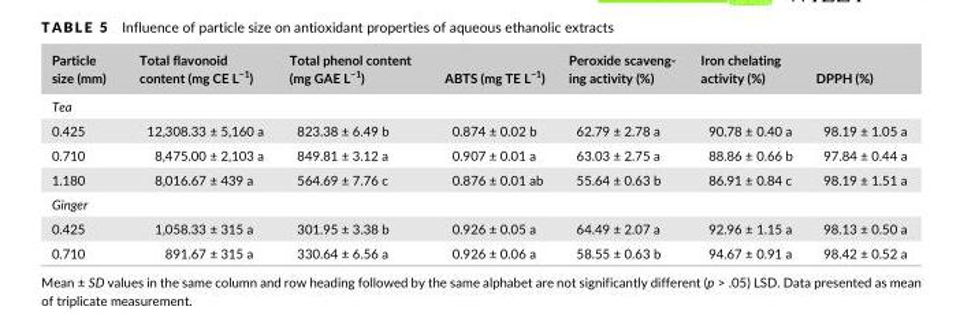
<table><thead><tr><td>Particle size (mm)</td><td>Total flavonoid content (mg CE L<sup>−1</sup>)</td><td>Total phenol content (mg GAE L<sup>−1</sup>)</td><td>ABTS (mg TE L<sup>−1</sup>)</td><td>Peroxide scaveng- ing activity (%)</td><td>Iron chelating activity (%)</td><td>DPPH (%)</td></tr></thead><tbody><tr><td colspan="7">Tea</td></tr><tr><td>0.425</td><td>12,308.33 ± 5,160 a</td><td>823.38 ± 6.49 b</td><td>0.874 ± 0.02 b</td><td>62.79 ± 2.78 a</td><td>90.78 ± 0.40 a</td><td>98.19 ± 1.05 a</td></tr><tr><td>0.710</td><td>8,475.00 ± 2,103 a</td><td>849.81 ± 3.12 a</td><td>0.907 ± 0.01 a</td><td>63.03 ± 2.75 a</td><td>88.86 ± 0.66 b</td><td>97.84 ± 0.44 a</td></tr><tr><td>1.180</td><td>8,016.67 ± 439 a</td><td>564.69 ± 7.76 c</td><td>0.876 ± 0.01 ab</td><td>55.64 ± 0.63 b</td><td>86.91 ± 0.84 c</td><td>98.19 ± 1.51 a</td></tr><tr><td colspan="7">Ginger</td></tr><tr><td>0.425</td><td>1,058.33 ± 315 a</td><td>301.95 ± 3.38 b</td><td>0.926 ± 0.05 a</td><td>64.49 ± 2.07 a</td><td>92.96 ± 1.15 a</td><td>98.13 ± 0.50 a</td></tr><tr><td>0.710</td><td>891.67 ± 315 a</td><td>330.64 ± 6.56 a</td><td>0.926 ± 0.06 a</td><td>58.55 ± 0.63 b</td><td>94.67 ± 0.91 a</td><td>98.42 ± 0.52 a</td></tr></tbody></table>